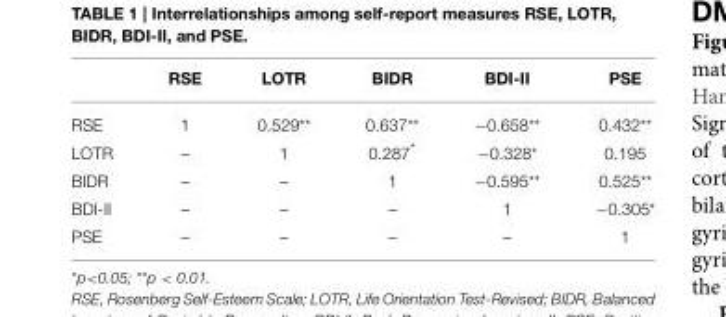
<table><thead><tr><td></td><td>RSE</td><td>LOTR</td><td>BIDR</td><td>BDI-II</td><td>PSE</td></tr></thead><tbody><tr><td>RSE</td><td>1</td><td>0.529**</td><td>0.637**</td><td>−0.658**</td><td>0.432**</td></tr><tr><td>LOTR</td><td>–</td><td>1</td><td>0.287*</td><td>−0.328*</td><td>0.195</td></tr><tr><td>BIDR</td><td>–</td><td>–</td><td>1</td><td>−0.595**</td><td>0.525**</td></tr><tr><td>BDI-II</td><td>–</td><td>–</td><td>–</td><td>1</td><td>−0.305*</td></tr><tr><td>PSE</td><td>–</td><td>–</td><td>–</td><td>–</td><td>1</td></tr></tbody></table>